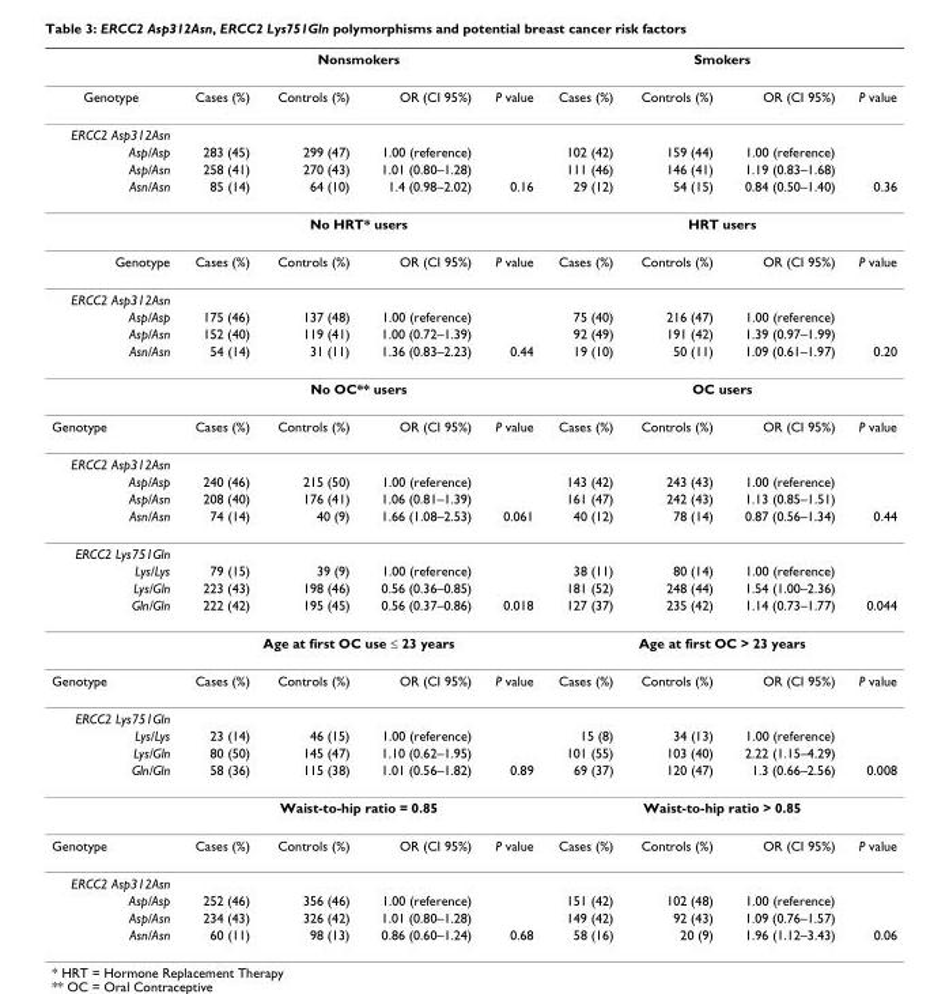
<table><thead><tr><td rowspan="2">Genotype</td><td colspan="4">Nonsmokers</td><td colspan="4">Smokers</td></tr><tr><td>Cases (%)</td><td>Controls (%)</td><td>OR (CI 95%)</td><td>P value</td><td>Cases (%)</td><td>Controls (%)</td><td>OR (CI 95%)</td><td>P value</td></tr></thead><tbody><tr><td colspan="9">ERCC2 Asp312Asn</td></tr><tr><td>Asp/Asp</td><td>283 (45)</td><td>299 (47)</td><td>1.00 (reference)</td><td></td><td>102 (42)</td><td>159 (44)</td><td>1.00 (reference)</td><td></td></tr><tr><td>Asp/Asn</td><td>258 (41)</td><td>270 (43)</td><td>1.01 (0.80–1.28)</td><td></td><td>111 (46)</td><td>146 (41)</td><td>1.19 (0.83–1.68)</td><td></td></tr><tr><td rowspan="2">Asn/Asn</td><td>85 (14)</td><td>64 (10)</td><td>1.4 (0.98–2.02)</td><td>0.16</td><td>29 (12)</td><td>54 (15)</td><td>0.84 (0.50–1.40)</td><td>0.36</td></tr><tr><td colspan="4">No HRT* users</td><td colspan="4">HRT users</td></tr><tr><td>Genotype</td><td>Cases (%)</td><td>Controls (%)</td><td>OR (CI 95%)</td><td>P value</td><td>Cases (%)</td><td>Controls (%)</td><td>OR (CI 95%)</td><td>P value</td></tr><tr><td colspan="9">ERCC2 Asp312Asn</td></tr><tr><td>Asp/Asp</td><td>175 (46)</td><td>137 (48)</td><td>1.00 (reference)</td><td></td><td>75 (40)</td><td>216 (47)</td><td>1.00 (reference)</td><td></td></tr><tr><td>Asp/Asn</td><td>152 (40)</td><td>119 (41)</td><td>1.00 (0.72–1.39)</td><td></td><td>92 (49)</td><td>191 (42)</td><td>1.39 (0.97–1.99)</td><td></td></tr><tr><td rowspan="2">Asn/Asn</td><td>54 (14)</td><td>31 (11)</td><td>1.36 (0.83–2.23)</td><td>0.44</td><td>19 (10)</td><td>50 (11)</td><td>1.09 (0.61–1.97)</td><td>0.20</td></tr><tr><td colspan="4">No OC** users</td><td colspan="4">OC users</td></tr><tr><td>Genotype</td><td>Cases (%)</td><td>Controls (%)</td><td>OR (CI 95%)</td><td>P value</td><td>Cases (%)</td><td>Controls (%)</td><td>OR (CI 95%)</td><td>P value</td></tr><tr><td colspan="9">ERCC2 Asp312Asn</td></tr><tr><td>Asp/Asp</td><td>240 (46)</td><td>215 (50)</td><td>1.00 (reference)</td><td></td><td>143 (42)</td><td>243 (43)</td><td>1.00 (reference)</td><td></td></tr><tr><td>Asp/Asn</td><td>208 (40)</td><td>176 (41)</td><td>1.06 (0.81–1.39)</td><td></td><td>161 (47)</td><td>242 (43)</td><td>1.13 (0.85–1.51)</td><td></td></tr><tr><td>Asn/Asn</td><td>74 (14)</td><td>40 (9)</td><td>1.66 (1.08–2.53)</td><td>0.061</td><td>40 (12)</td><td>78 (14)</td><td>0.87 (0.56–1.34)</td><td>0.44</td></tr><tr><td colspan="9">ERCC2 Lys751Gln</td></tr><tr><td>Lys/Lys</td><td>79 (15)</td><td>39 (9)</td><td>1.00 (reference)</td><td></td><td>38 (11)</td><td>80 (14)</td><td>1.00 (reference)</td><td></td></tr><tr><td>Lys/Gln</td><td>223 (43)</td><td>198 (46)</td><td>0.56 (0.36–0.85)</td><td></td><td>181 (52)</td><td>248 (44)</td><td>1.54 (1.00–2.36)</td><td></td></tr><tr><td rowspan="2">Gln/Gln</td><td>222 (42)</td><td>195 (45)</td><td>0.56 (0.37–0.86)</td><td>0.018</td><td>127 (37)</td><td>235 (42)</td><td>1.14 (0.73–1.77)</td><td>0.044</td></tr><tr><td colspan="4">Age at first OC use ≤ 23 years</td><td colspan="4">Age at first OC &gt; 23 years</td></tr><tr><td>Genotype</td><td>Cases (%)</td><td>Controls (%)</td><td>OR (CI 95%)</td><td>P value</td><td>Cases (%)</td><td>Controls (%)</td><td>OR (CI 95%)</td><td>P value</td></tr><tr><td colspan="9">ERCC2 Lys751Gln</td></tr><tr><td>Lys/Lys</td><td>23 (14)</td><td>46 (15)</td><td>1.00 (reference)</td><td></td><td>15 (8)</td><td>34 (13)</td><td>1.00 (reference)</td><td></td></tr><tr><td>Lys/Gln</td><td>80 (50)</td><td>145 (47)</td><td>1.10 (0.62–1.95)</td><td></td><td>101 (55)</td><td>103 (40)</td><td>2.22 (1.15–4.29)</td><td></td></tr><tr><td rowspan="2">Gln/Gln</td><td>58 (36)</td><td>115 (38)</td><td>1.01 (0.56–1.82)</td><td>0.89</td><td>69 (37)</td><td>120 (47)</td><td>1.3 (0.66–2.56)</td><td>0.008</td></tr><tr><td colspan="4">Waist-to-hip ratio = 0.85</td><td colspan="4">Waist-to-hip ratio &gt; 0.85</td></tr><tr><td>Genotype</td><td>Cases (%)</td><td>Controls (%)</td><td>OR (CI 95%)</td><td>P value</td><td>Cases (%)</td><td>Controls (%)</td><td>OR (CI 95%)</td><td>P value</td></tr><tr><td colspan="9">ERCC2 Asp312Asn</td></tr><tr><td>Asp/Asp</td><td>252 (46)</td><td>356 (46)</td><td>1.00 (reference)</td><td></td><td>151 (42)</td><td>102 (48)</td><td>1.00 (reference)</td><td></td></tr><tr><td>Asp/Asn</td><td>234 (43)</td><td>326 (42)</td><td>1.01 (0.80–1.28)</td><td></td><td>149 (42)</td><td>92 (43)</td><td>1.09 (0.76–1.57)</td><td></td></tr><tr><td>Asn/Asn</td><td>60 (11)</td><td>98 (13)</td><td>0.86 (0.60–1.24)</td><td>0.68</td><td>58 (16)</td><td>20 (9)</td><td>1.96 (1.12–3.43)</td><td>0.06</td></tr></tbody></table>